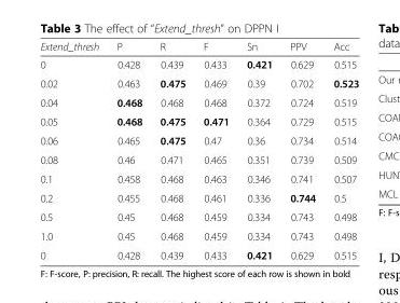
<table><thead><tr><td>Extend_thresh</td><td>P</td><td>R</td><td>F</td><td>Sn</td><td>PPV</td><td>Acc</td></tr></thead><tbody><tr><td>0</td><td>0.428</td><td>0.439</td><td>0.433</td><td>0.421</td><td>0.629</td><td>0.515</td></tr><tr><td>0.02</td><td>0.463</td><td>0.475</td><td>0.469</td><td>0.39</td><td>0.702</td><td>0.523</td></tr><tr><td>0.04</td><td>0.468</td><td>0.468</td><td>0.468</td><td>0.372</td><td>0.724</td><td>0.519</td></tr><tr><td>0.05</td><td>0.468</td><td>0.475</td><td>0.471</td><td>0.364</td><td>0.729</td><td>0.515</td></tr><tr><td>0.06</td><td>0.465</td><td>0.475</td><td>0.47</td><td>0.36</td><td>0.734</td><td>0.514</td></tr><tr><td>0.08</td><td>0.46</td><td>0.471</td><td>0.465</td><td>0.351</td><td>0.739</td><td>0.509</td></tr><tr><td>0.1</td><td>0.458</td><td>0.468</td><td>0.463</td><td>0.346</td><td>0.741</td><td>0.507</td></tr><tr><td>0.2</td><td>0.455</td><td>0.468</td><td>0.461</td><td>0.336</td><td>0.744</td><td>0.5</td></tr><tr><td>0.5</td><td>0.45</td><td>0.468</td><td>0.459</td><td>0.334</td><td>0.743</td><td>0.498</td></tr><tr><td>1.0</td><td>0.45</td><td>0.468</td><td>0.459</td><td>0.334</td><td>0.743</td><td>0.498</td></tr><tr><td>0</td><td>0.428</td><td>0.439</td><td>0.433</td><td>0.421</td><td>0.629</td><td>0.515</td></tr></tbody></table>